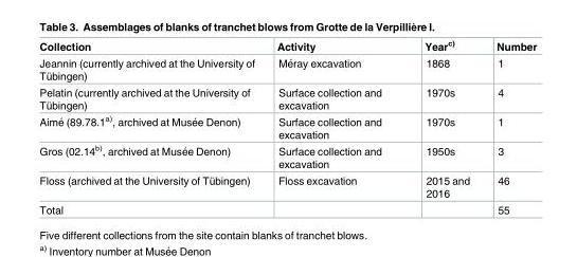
<table><thead><tr><td>Collection</td><td>Activity</td><td>Year<sup>c)</sup></td><td>Number</td></tr></thead><tbody><tr><td>Jeannin (currently archived at the University of Tu¨bingen)</td><td>Me´ray excavation</td><td>1868</td><td>1</td></tr><tr><td>Pelatin (currently archived at the University of Tu¨bingen)</td><td>Surface collection and excavation</td><td>1970s</td><td>4</td></tr><tr><td>Aime´ (89.78.1a), archived at Muse´e Denon)</td><td>Surface collection and excavation</td><td>1970s</td><td>1</td></tr><tr><td>Gros (02.14b), archived at Muse´e Denon)</td><td>Surface collection and excavation</td><td>1950s</td><td>3</td></tr><tr><td>Floss (archived at the University of Tu¨bingen)</td><td>Floss excavation</td><td>2015 and 2016</td><td>46</td></tr><tr><td>Total</td><td></td><td></td><td>55</td></tr></tbody></table>